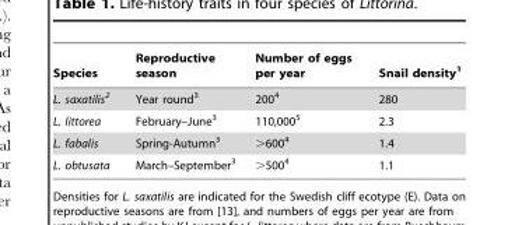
<table><thead><tr><td>Species</td><td>Reproductive season</td><td>Number of eggs per year</td><td>Snail density<sup>1</sup></td></tr></thead><tbody><tr><td>L. saxatilis<sup>2</sup></td><td>Year round<sup>3</sup></td><td>200<sup>4</sup></td><td>280</td></tr><tr><td>L. littorea</td><td>February–June<sup>3</sup></td><td>110,000<sup>5</sup></td><td>2.3</td></tr><tr><td>L. fabalis</td><td>Spring-Autumn<sup>3</sup></td><td>&gt;600<sup>4</sup></td><td>1.4</td></tr><tr><td>L. obtusata</td><td>March–September<sup>3</sup></td><td>&gt;500<sup>4</sup></td><td>1.1</td></tr></tbody></table>